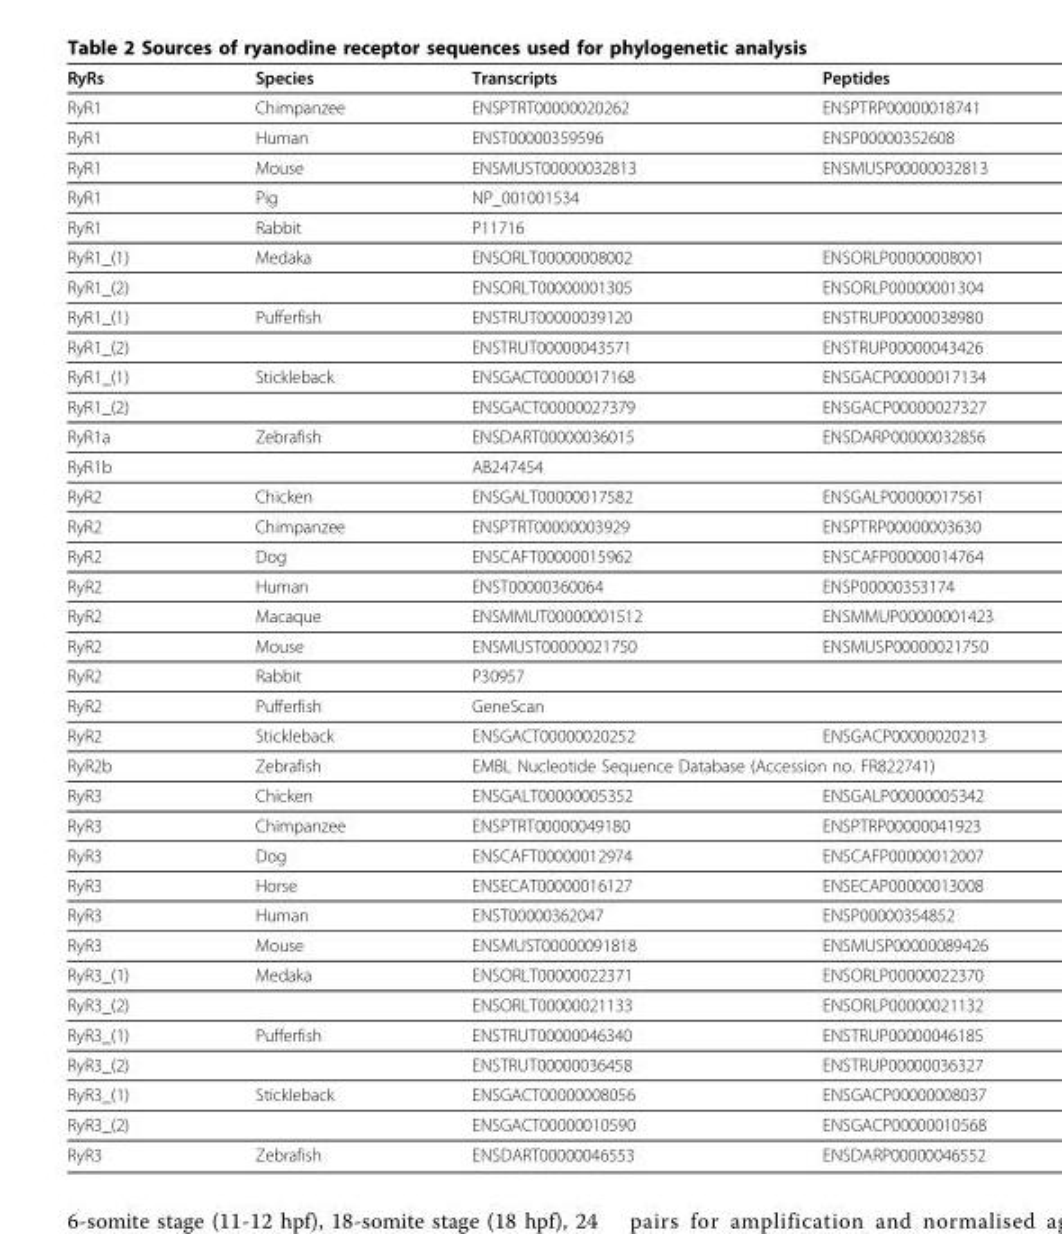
<table><thead><tr><td>RyRs</td><td>Species</td><td>Transcripts</td><td>Peptides</td></tr></thead><tbody><tr><td>RyR1</td><td>Chimpanzee</td><td>ENSPTRT00000020262</td><td>ENSPTRP00000018741</td></tr><tr><td>RyR1</td><td>Human</td><td>ENST00000359596</td><td>ENSP00000352608</td></tr><tr><td>RyR1</td><td>Mouse</td><td>ENSMUST00000032813</td><td>ENSMUSP00000032813</td></tr><tr><td>RyR1</td><td>Pig</td><td colspan="2">NP_001001534</td></tr><tr><td>RyR1</td><td>Rabbit</td><td colspan="2">P11716</td></tr><tr><td>RyR1_(1)</td><td>Medaka</td><td>ENSORLT00000008002</td><td>ENSORLP00000008001</td></tr><tr><td>RyR1_(2)</td><td></td><td>ENSORLT00000001305</td><td>ENSORLP00000001304</td></tr><tr><td>RyR1_(1)</td><td>Pufferfish</td><td>ENSTRUT00000039120</td><td>ENSTRUP00000038980</td></tr><tr><td>RyR1_(2)</td><td></td><td>ENSTRUT00000043571</td><td>ENSTRUP00000043426</td></tr><tr><td>RyR1_(1)</td><td>Stickleback</td><td>ENSGACT00000017168</td><td>ENSGACP00000017134</td></tr><tr><td>RyR1_(2)</td><td></td><td>ENSGACT00000027379</td><td>ENSGACP00000027327</td></tr><tr><td>RyR1a</td><td>Zebrafish</td><td>ENSDART00000036015</td><td>ENSDARP00000032856</td></tr><tr><td>RyR1b</td><td></td><td colspan="2">AB247454</td></tr><tr><td>RyR2</td><td>Chicken</td><td>ENSGALT00000017582</td><td>ENSGALP00000017561</td></tr><tr><td>RyR2</td><td>Chimpanzee</td><td>ENSPTRT00000003929</td><td>ENSPTRP00000003630</td></tr><tr><td>RyR2</td><td>Dog</td><td>ENSCAFT00000015962</td><td>ENSCAFP00000014764</td></tr><tr><td>RyR2</td><td>Human</td><td>ENST00000360064</td><td>ENSP00000353174</td></tr><tr><td>RyR2</td><td>Macaque</td><td>ENSMMUT00000001512</td><td>ENSMMUP00000001423</td></tr><tr><td>RyR2</td><td>Mouse</td><td>ENSMUST00000021750</td><td>ENSMUSP00000021750</td></tr><tr><td>RyR2</td><td>Rabbit</td><td colspan="2">P30957</td></tr><tr><td>RyR2</td><td>Pufferfish</td><td colspan="2">GeneScan</td></tr><tr><td>RyR2</td><td>Stickleback</td><td>ENSGACT00000020252</td><td>ENSGACP00000020213</td></tr><tr><td>RyR2b</td><td>Zebrafish</td><td colspan="2">EMBL Nucleotide Sequence Database (Accession no. FR822741)</td></tr><tr><td>RyR3</td><td>Chicken</td><td>ENSGALT00000005352</td><td>ENSGALP00000005342</td></tr><tr><td>RyR3</td><td>Chimpanzee</td><td>ENSPTRT00000049180</td><td>ENSPTRP00000041923</td></tr><tr><td>RyR3</td><td>Dog</td><td>ENSCAFT00000012974</td><td>ENSCAFP00000012007</td></tr><tr><td>RyR3</td><td>Horse</td><td>ENSECAT00000016127</td><td>ENSECAP00000013008</td></tr><tr><td>RyR3</td><td>Human</td><td>ENST00000362047</td><td>ENSP00000354852</td></tr><tr><td>RyR3</td><td>Mouse</td><td>ENSMUST00000091818</td><td>ENSMUSP00000089426</td></tr><tr><td>RyR3_(1)</td><td>Medaka</td><td>ENSORLT00000022371</td><td>ENSORLP00000022370</td></tr><tr><td>RyR3_(2)</td><td></td><td>ENSORLT00000021133</td><td>ENSORLP00000021132</td></tr><tr><td>RyR3_(1)</td><td>Pufferfish</td><td>ENSTRUT00000046340</td><td>ENSTRUP00000046185</td></tr><tr><td>RyR3_(2)</td><td></td><td>ENSTRUT00000036458</td><td>ENSTRUP00000036327</td></tr><tr><td>RyR3_(1)</td><td>Stickleback</td><td>ENSGACT00000008056</td><td>ENSGACP00000008037</td></tr><tr><td>RyR3_(2)</td><td></td><td>ENSGACT00000010590</td><td>ENSGACP00000010568</td></tr><tr><td>RyR3</td><td>Zebrafish</td><td>ENSDART00000046553</td><td>ENSDARP00000046552</td></tr></tbody></table>